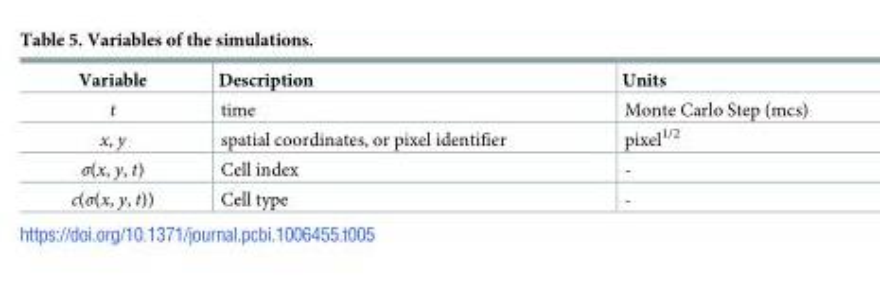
<table><thead><tr><td>Variable</td><td>Description</td><td>Units</td></tr></thead><tbody><tr><td>t</td><td>time</td><td>Monte Carlo Step (mcs)</td></tr><tr><td>x, y</td><td>spatial coordinates, or pixel identifier</td><td>pixel<sup>1/2</sup></td></tr><tr><td>σ(x, y, t)</td><td>Cell index</td><td>-</td></tr><tr><td>c(σ(x, y, t))</td><td>Cell type</td><td>-</td></tr></tbody></table>